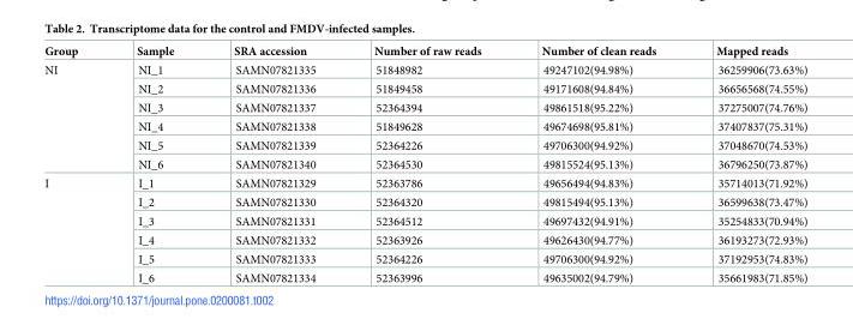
<table><thead><tr><td>Group</td><td>Sample</td><td>SRA accession</td><td>Number of raw reads</td><td>Number of clean reads</td><td>Mapped reads</td></tr></thead><tbody><tr><td rowspan="6">NI</td><td>NI_1</td><td>SAMN07821335</td><td>51848982</td><td>49247102(94.98%)</td><td>36259906(73.63%)</td></tr><tr><td>NI_2</td><td>SAMN07821336</td><td>51849458</td><td>49171608(94.84%)</td><td>36656568(74.55%)</td></tr><tr><td>NI_3</td><td>SAMN07821337</td><td>52364394</td><td>49861518(95.22%)</td><td>37275007(74.76%)</td></tr><tr><td>NI_4</td><td>SAMN07821338</td><td>51849628</td><td>49674698(95.81%)</td><td>37407837(75.31%)</td></tr><tr><td>NI_5</td><td>SAMN07821339</td><td>52364226</td><td>49706300(94.92%)</td><td>37048670(74.53%)</td></tr><tr><td>NI_6</td><td>SAMN07821340</td><td>52364530</td><td>49815524(95.13%)</td><td>36796250(73.87%)</td></tr><tr><td rowspan="6">I</td><td>I_1</td><td>SAMN07821329</td><td>52363786</td><td>49656494(94.83%)</td><td>35714013(71.92%)</td></tr><tr><td>I_2</td><td>SAMN07821330</td><td>52364320</td><td>49815494(95.13%)</td><td>36599638(73.47%)</td></tr><tr><td>I_3</td><td>SAMN07821331</td><td>52364512</td><td>49697432(94.91%)</td><td>35254833(70.94%)</td></tr><tr><td>I_4</td><td>SAMN07821332</td><td>52363926</td><td>49626430(94.77%)</td><td>36193273(72.93%)</td></tr><tr><td>I_5</td><td>SAMN07821333</td><td>52364226</td><td>49706300(94.92%)</td><td>37192953(74.83%)</td></tr><tr><td>I_6</td><td>SAMN07821334</td><td>52363996</td><td>49635002(94.79%)</td><td>35661983(71.85%)</td></tr></tbody></table>